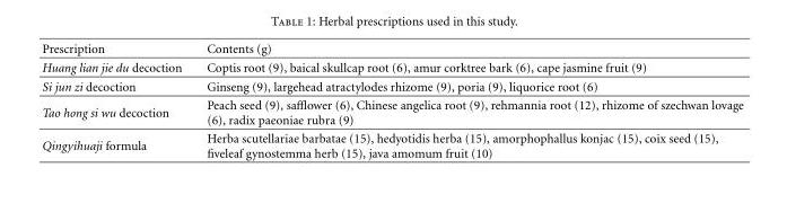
<table><thead><tr><td>Prescription</td><td>Contents (g)</td></tr></thead><tbody><tr><td>Huang lian jie du decoction</td><td>Coptis root (9), baical skullcap root (6), amur corktree bark (6), cape jasmine fruit (9)</td></tr><tr><td>Si jun zi decoction</td><td>Ginseng (9), largehead atractylodes rhizome (9), poria (9), liquorice root (6)</td></tr><tr><td>Tao hong si wu decoction</td><td>Peach seed (9), safflower (6), Chinese angelica root (9), rehmannia root (12), rhizome of szechwan lovage (6), radix paeoniae rubra (9)</td></tr><tr><td>Qingyihuaji formula</td><td>Herba scutellariae barbatae (15), hedyotidis herba (15), amorphophallus konjac (15), coix seed (15), fiveleaf gynostemma herb (15), java amomum fruit (10)</td></tr></tbody></table>